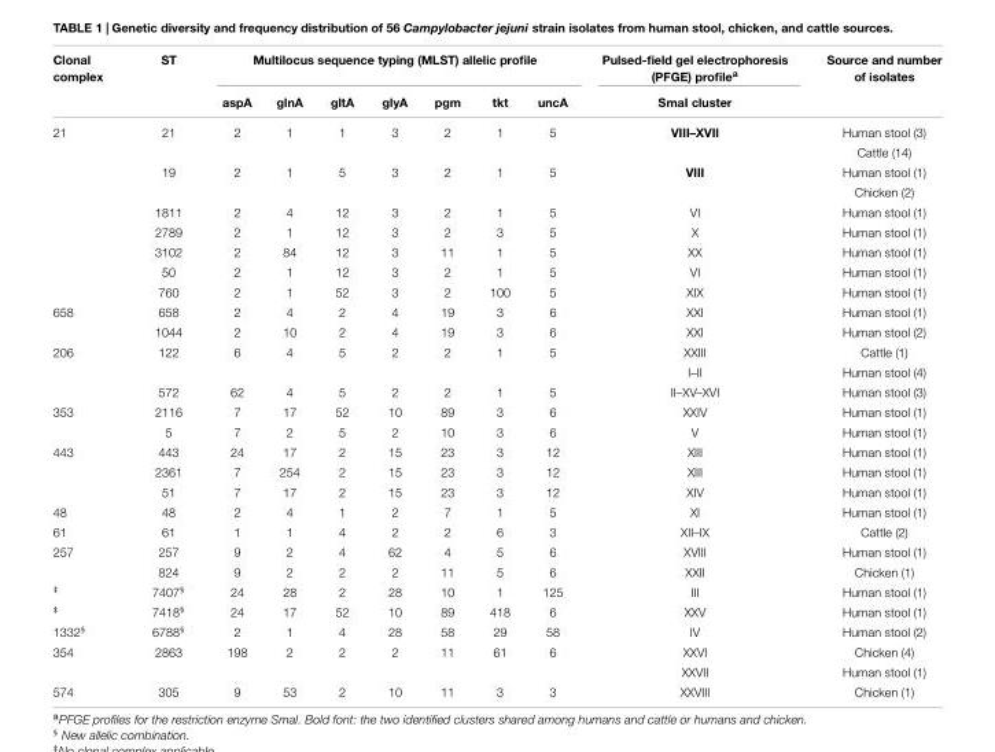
<table><thead><tr><td rowspan="2">Clonal complex</td><td rowspan="2">ST</td><td colspan="7">Multilocus sequence typing (MLST) allelic profile</td><td rowspan="2">Pulsed-field gel electrophoresis (PFGE) profile<sup>a</sup> SmaI cluster</td><td rowspan="2">Source and number of isolates</td></tr><tr><td>aspA</td><td>glnA</td><td>gltA</td><td>glyA</td><td>pgm</td><td>tkt</td><td>uncA</td></tr></thead><tbody><tr><td rowspan="9">21</td><td>21</td><td>2</td><td>1</td><td>1</td><td>3</td><td>2</td><td>1</td><td>5</td><td>VIII–XVII</td><td>Human stool (3)</td></tr><tr><td></td><td></td><td></td><td></td><td></td><td></td><td></td><td></td><td></td><td>Cattle (14)</td></tr><tr><td>19</td><td>2</td><td>1</td><td>5</td><td>3</td><td>2</td><td>1</td><td>5</td><td>VIII</td><td>Human stool (1)</td></tr><tr><td></td><td></td><td></td><td></td><td></td><td></td><td></td><td></td><td></td><td>Chicken (2)</td></tr><tr><td>1811</td><td>2</td><td>4</td><td>12</td><td>3</td><td>2</td><td>1</td><td>5</td><td>VI</td><td>Human stool (1)</td></tr><tr><td>2789</td><td>2</td><td>1</td><td>12</td><td>3</td><td>2</td><td>3</td><td>5</td><td>X</td><td>Human stool (1)</td></tr><tr><td>3102</td><td>2</td><td>84</td><td>12</td><td>3</td><td>11</td><td>1</td><td>5</td><td>XX</td><td>Human stool (1)</td></tr><tr><td>50</td><td>2</td><td>1</td><td>12</td><td>3</td><td>2</td><td>1</td><td>5</td><td>VI</td><td>Human stool (1)</td></tr><tr><td>760</td><td>2</td><td>1</td><td>52</td><td>3</td><td>2</td><td>100</td><td>5</td><td>XIX</td><td>Human stool (1)</td></tr><tr><td rowspan="2">658</td><td>658</td><td>2</td><td>4</td><td>2</td><td>4</td><td>19</td><td>3</td><td>6</td><td>XXI</td><td>Human stool (1)</td></tr><tr><td>1044</td><td>2</td><td>10</td><td>2</td><td>4</td><td>19</td><td>3</td><td>6</td><td>XXI</td><td>Human stool (2)</td></tr><tr><td rowspan="3">206</td><td>122</td><td>6</td><td>4</td><td>5</td><td>2</td><td>2</td><td>1</td><td>5</td><td>XXIII</td><td>Cattle (1)</td></tr><tr><td></td><td></td><td></td><td></td><td></td><td></td><td></td><td></td><td>I–II</td><td>Human stool (4)</td></tr><tr><td>572</td><td>62</td><td>4</td><td>5</td><td>2</td><td>2</td><td>1</td><td>5</td><td>II–XV–XVI</td><td>Human stool (3)</td></tr><tr><td rowspan="2">353</td><td>2116</td><td>7</td><td>17</td><td>52</td><td>10</td><td>89</td><td>3</td><td>6</td><td>XXIV</td><td>Human stool (1)</td></tr><tr><td>5</td><td>7</td><td>2</td><td>5</td><td>2</td><td>10</td><td>3</td><td>6</td><td>V</td><td>Human stool (1)</td></tr><tr><td rowspan="3">443</td><td>443</td><td>24</td><td>17</td><td>2</td><td>15</td><td>23</td><td>3</td><td>12</td><td>XIII</td><td>Human stool (1)</td></tr><tr><td>2361</td><td>7</td><td>254</td><td>2</td><td>15</td><td>23</td><td>3</td><td>12</td><td>XIII</td><td>Human stool (1)</td></tr><tr><td>51</td><td>7</td><td>17</td><td>2</td><td>15</td><td>23</td><td>3</td><td>12</td><td>XIV</td><td>Human stool (1)</td></tr><tr><td>48</td><td>48</td><td>2</td><td>4</td><td>1</td><td>2</td><td>7</td><td>1</td><td>5</td><td>XI</td><td>Human stool (1)</td></tr><tr><td>61</td><td>61</td><td>1</td><td>1</td><td>4</td><td>2</td><td>2</td><td>6</td><td>3</td><td>XII–IX</td><td>Cattle (2)</td></tr><tr><td rowspan="2">257</td><td>257</td><td>9</td><td>2</td><td>4</td><td>62</td><td>4</td><td>5</td><td>6</td><td>XVIII</td><td>Human stool (1)</td></tr><tr><td>824</td><td>9</td><td>2</td><td>2</td><td>2</td><td>11</td><td>5</td><td>6</td><td>XXII</td><td>Chicken (1)</td></tr><tr><td><sup>‡</sup></td><td>7407<sup>§</sup></td><td>24</td><td>28</td><td>2</td><td>28</td><td>10</td><td>1</td><td>125</td><td>III</td><td>Human stool (1)</td></tr><tr><td><sup>‡</sup></td><td>7418<sup>§</sup></td><td>24</td><td>17</td><td>52</td><td>10</td><td>89</td><td>418</td><td>6</td><td>XXV</td><td>Human stool (1)</td></tr><tr><td>1332<sup>§</sup></td><td>6788<sup>§</sup></td><td>2</td><td>1</td><td>4</td><td>28</td><td>58</td><td>29</td><td>58</td><td>IV</td><td>Human stool (2)</td></tr><tr><td rowspan="2">354</td><td>2863</td><td>198</td><td>2</td><td>2</td><td>2</td><td>11</td><td>61</td><td>6</td><td>XXVI</td><td>Chicken (4)</td></tr><tr><td></td><td></td><td></td><td></td><td></td><td></td><td></td><td></td><td>XXVII</td><td>Human stool (1)</td></tr><tr><td>574</td><td>305</td><td>9</td><td>53</td><td>2</td><td>10</td><td>11</td><td>3</td><td>3</td><td>XXVIII</td><td>Chicken (1)</td></tr></tbody></table>